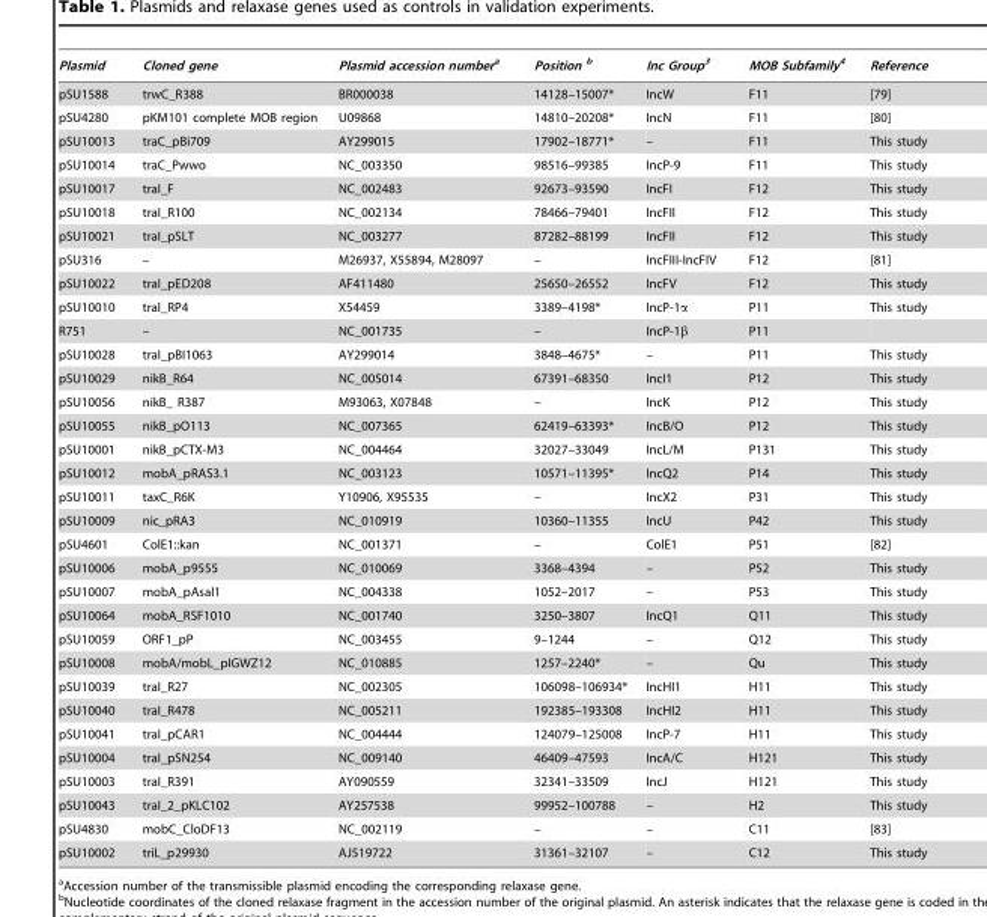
<table><thead><tr><td>Plasmid</td><td>Cloned gene</td><td>Plasmid accession numbera</td><td>Position b</td><td>Inc Group<sup>3</sup></td><td>MOB Subfamily<sup>4</sup></td><td>Reference</td></tr></thead><tbody><tr><td>pSU1588</td><td>trwC_R388</td><td>BR000038</td><td>14128–15007*</td><td>IncW</td><td>F11</td><td>[79]</td></tr><tr><td>pSU4280</td><td>pKM101 complete MOB region</td><td>U09868</td><td>14810–20208*</td><td>IncN</td><td>F11</td><td>[80]</td></tr><tr><td>pSU10013</td><td>traC_pBi709</td><td>AY299015</td><td>17902–18771*</td><td>–</td><td>F11</td><td>This study</td></tr><tr><td>pSU10014</td><td>traC_Pwwo</td><td>NC_003350</td><td>98516–99385</td><td>IncP-9</td><td>F11</td><td>This study</td></tr><tr><td>pSU10017</td><td>traI_F</td><td>NC_002483</td><td>92673–93590</td><td>IncFI</td><td>F12</td><td>This study</td></tr><tr><td>pSU10018</td><td>traI_R100</td><td>NC_002134</td><td>78466–79401</td><td>IncFII</td><td>F12</td><td>This study</td></tr><tr><td>pSU10021</td><td>traI_pSLT</td><td>NC_003277</td><td>87282–88199</td><td>IncFII</td><td>F12</td><td>This study</td></tr><tr><td>pSU316</td><td>–</td><td>M26937, X55894, M28097</td><td>–</td><td>IncFIII-IncFIV</td><td>F12</td><td>[81]</td></tr><tr><td>pSU10022</td><td>traI_pED208</td><td>AF411480</td><td>25650–26552</td><td>IncFV</td><td>F12</td><td>This study</td></tr><tr><td>pSU10010</td><td>traI_RP4</td><td>X54459</td><td>3389–4198*</td><td>IncP-1α</td><td>P11</td><td>This study</td></tr><tr><td>R751</td><td>–</td><td>NC_001735</td><td>–</td><td>IncP-1β</td><td>P11</td><td></td></tr><tr><td>pSU10028</td><td>traI_pBI1063</td><td>AY299014</td><td>3848–4675*</td><td>–</td><td>P11</td><td>This study</td></tr><tr><td>pSU10029</td><td>nikB_R64</td><td>NC_005014</td><td>67391–68350</td><td>IncI1</td><td>P12</td><td>This study</td></tr><tr><td>pSU10056</td><td>nikB_ R387</td><td>M93063, X07848</td><td>–</td><td>IncK</td><td>P12</td><td>This study</td></tr><tr><td>pSU10055</td><td>nikB_pO113</td><td>NC_007365</td><td>62419–63393*</td><td>IncB/O</td><td>P12</td><td>This study</td></tr><tr><td>pSU10001</td><td>nikB_pCTX-M3</td><td>NC_004464</td><td>32027–33049</td><td>IncL/M</td><td>P131</td><td>This study</td></tr><tr><td>pSU10012</td><td>mobA_pRAS3.1</td><td>NC_003123</td><td>10571–11395*</td><td>IncQ2</td><td>P14</td><td>This study</td></tr><tr><td>pSU10011</td><td>taxC_R6K</td><td>Y10906, X95535</td><td>–</td><td>IncX2</td><td>P31</td><td>This study</td></tr><tr><td>pSU10009</td><td>nic_pRA3</td><td>NC_010919</td><td>10360–11355</td><td>IncU</td><td>P42</td><td>This study</td></tr><tr><td>pSU4601</td><td>ColE1::kan</td><td>NC_001371</td><td>–</td><td>ColE1</td><td>P51</td><td>[82]</td></tr><tr><td>pSU10006</td><td>mobA_p9555</td><td>NC_010069</td><td>3368–4394</td><td>–</td><td>P52</td><td>This study</td></tr><tr><td>pSU10007</td><td>mobA_pAsal1</td><td>NC_004338</td><td>1052–2017</td><td>–</td><td>P53</td><td>This study</td></tr><tr><td>pSU10064</td><td>mobA_RSF1010</td><td>NC_001740</td><td>3250–3807</td><td>IncQ1</td><td>Q11</td><td>This study</td></tr><tr><td>pSU10059</td><td>ORF1_pP</td><td>NC_003455</td><td>9–1244</td><td>–</td><td>Q12</td><td>This study</td></tr><tr><td>pSU10008</td><td>mobA/mobL_pIGWZ12</td><td>NC_010885</td><td>1257–2240*</td><td>–</td><td>Qu</td><td>This study</td></tr><tr><td>pSU10039</td><td>traI_R27</td><td>NC_002305</td><td>106098–106934*</td><td>IncHI1</td><td>H11</td><td>This study</td></tr><tr><td>pSU10040</td><td>traI_R478</td><td>NC_005211</td><td>192385–193308</td><td>IncHI2</td><td>H11</td><td>This study</td></tr><tr><td>pSU10041</td><td>traI_pCAR1</td><td>NC_004444</td><td>124079–125008</td><td>IncP-7</td><td>H11</td><td>This study</td></tr><tr><td>pSU10004</td><td>traI_pSN254</td><td>NC_009140</td><td>46409–47593</td><td>IncA/C</td><td>H121</td><td>This study</td></tr><tr><td>pSU10003</td><td>traI_R391</td><td>AY090559</td><td>32341–33509</td><td>IncJ</td><td>H121</td><td>This study</td></tr><tr><td>pSU10043</td><td>traI_2_pKLC102</td><td>AY257538</td><td>99952–100788</td><td>–</td><td>H2</td><td>This study</td></tr><tr><td>pSU4830</td><td>mobC_CloDF13</td><td>NC_002119</td><td>–</td><td>–</td><td>C11</td><td>[83]</td></tr><tr><td>pSU10002</td><td>triL_p29930</td><td>AJ519722</td><td>31361–32107</td><td>–</td><td>C12</td><td>This study</td></tr></tbody></table>